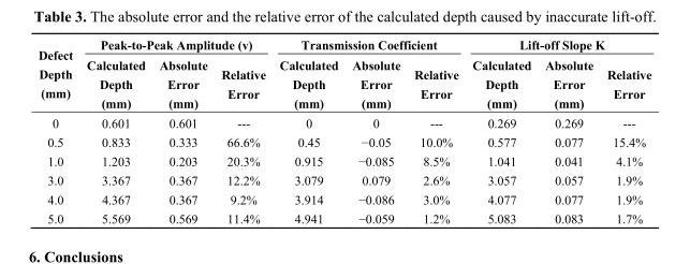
<table><thead><tr><td rowspan="2">Defect Depth (mm)</td><td colspan="3">Peak-to-Peak Amplitude (v)</td><td colspan="3">Transmission Coefficient</td><td colspan="3">Lift-off Slope K</td></tr><tr><td>Calculated Depth (mm)</td><td>Absolute Error (mm)</td><td>Relative Error</td><td>Calculated Depth (mm)</td><td>Absolute Error (mm)</td><td>Relative Error</td><td>Calculated Depth (mm)</td><td>Absolute Error (mm)</td><td>Relative Error</td></tr></thead><tbody><tr><td>0</td><td>0.601</td><td>0.601</td><td>---</td><td>0</td><td>0</td><td>---</td><td>0.269</td><td>0.269</td><td>---</td></tr><tr><td>0.5</td><td>0.833</td><td>0.333</td><td>66.6%</td><td>0.45</td><td>−0.05</td><td>10.0%</td><td>0.577</td><td>0.077</td><td>15.4%</td></tr><tr><td>1.0</td><td>1.203</td><td>0.203</td><td>20.3%</td><td>0.915</td><td>−0.085</td><td>8.5%</td><td>1.041</td><td>0.041</td><td>4.1%</td></tr><tr><td>3.0</td><td>3.367</td><td>0.367</td><td>12.2%</td><td>3.079</td><td>0.079</td><td>2.6%</td><td>3.057</td><td>0.057</td><td>1.9%</td></tr><tr><td>4.0</td><td>4.367</td><td>0.367</td><td>9.2%</td><td>3.914</td><td>−0.086</td><td>3.0%</td><td>4.077</td><td>0.077</td><td>1.9%</td></tr><tr><td>5.0</td><td>5.569</td><td>0.569</td><td>11.4%</td><td>4.941</td><td>−0.059</td><td>1.2%</td><td>5.083</td><td>0.083</td><td>1.7%</td></tr></tbody></table>